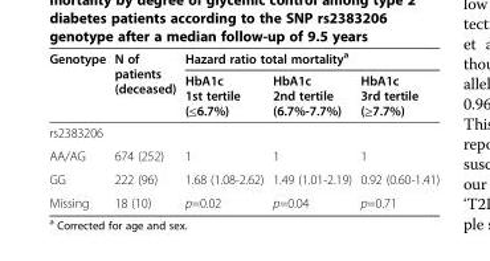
<table><thead><tr><td rowspan="2">Genotype</td><td rowspan="2">N of patients (deceased)</td><td colspan="3">Hazard ratio total mortality<sup>a</sup></td></tr><tr><td>HbA1c 1st tertile (≤6.7%)</td><td>HbA1c 2nd tertile (6.7%-7.7%)</td><td>HbA1c 3rd tertile (≥7.7%)</td></tr></thead><tbody><tr><td colspan="5">rs2383206</td></tr><tr><td>AA/AG</td><td>674 (252)</td><td>1</td><td>1</td><td>1</td></tr><tr><td>GG</td><td>222 (96)</td><td>1.68 (1.08-2.62)</td><td>1.49 (1.01-2.19)</td><td>0.92 (0.60-1.41)</td></tr><tr><td>Missing</td><td>18 (10)</td><td>p=0.02</td><td>p=0.04</td><td>p=0.71</td></tr></tbody></table>